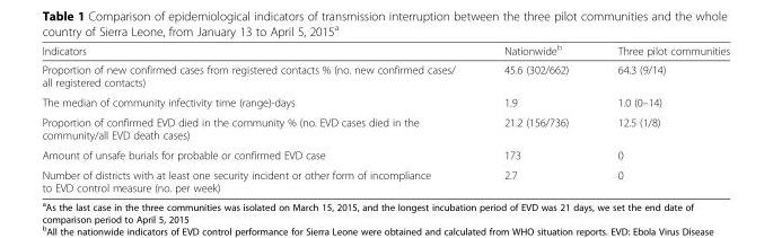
<table><thead><tr><td>Indicators</td><td>Nationwide<sup>b</sup></td><td>Three pilot communities</td></tr></thead><tbody><tr><td>Proportion of new confirmed cases from registered contacts % (no. new confirmed cases/ all registered contacts)</td><td>45.6 (302/662)</td><td>64.3 (9/14)</td></tr><tr><td>The median of community infectivity time (range)-days</td><td>1.9</td><td>1.0 (0–14)</td></tr><tr><td>Proportion of confirmed EVD died in the community % (no. EVD cases died in the community/all EVD death cases)</td><td>21.2 (156/736)</td><td>12.5 (1/8)</td></tr><tr><td>Amount of unsafe burials for probable or confirmed EVD case</td><td>173</td><td>0</td></tr><tr><td>Number of districts with at least one security incident or other form of incompliance to EVD control measure (no. per week)</td><td>2.7</td><td>0</td></tr></tbody></table>